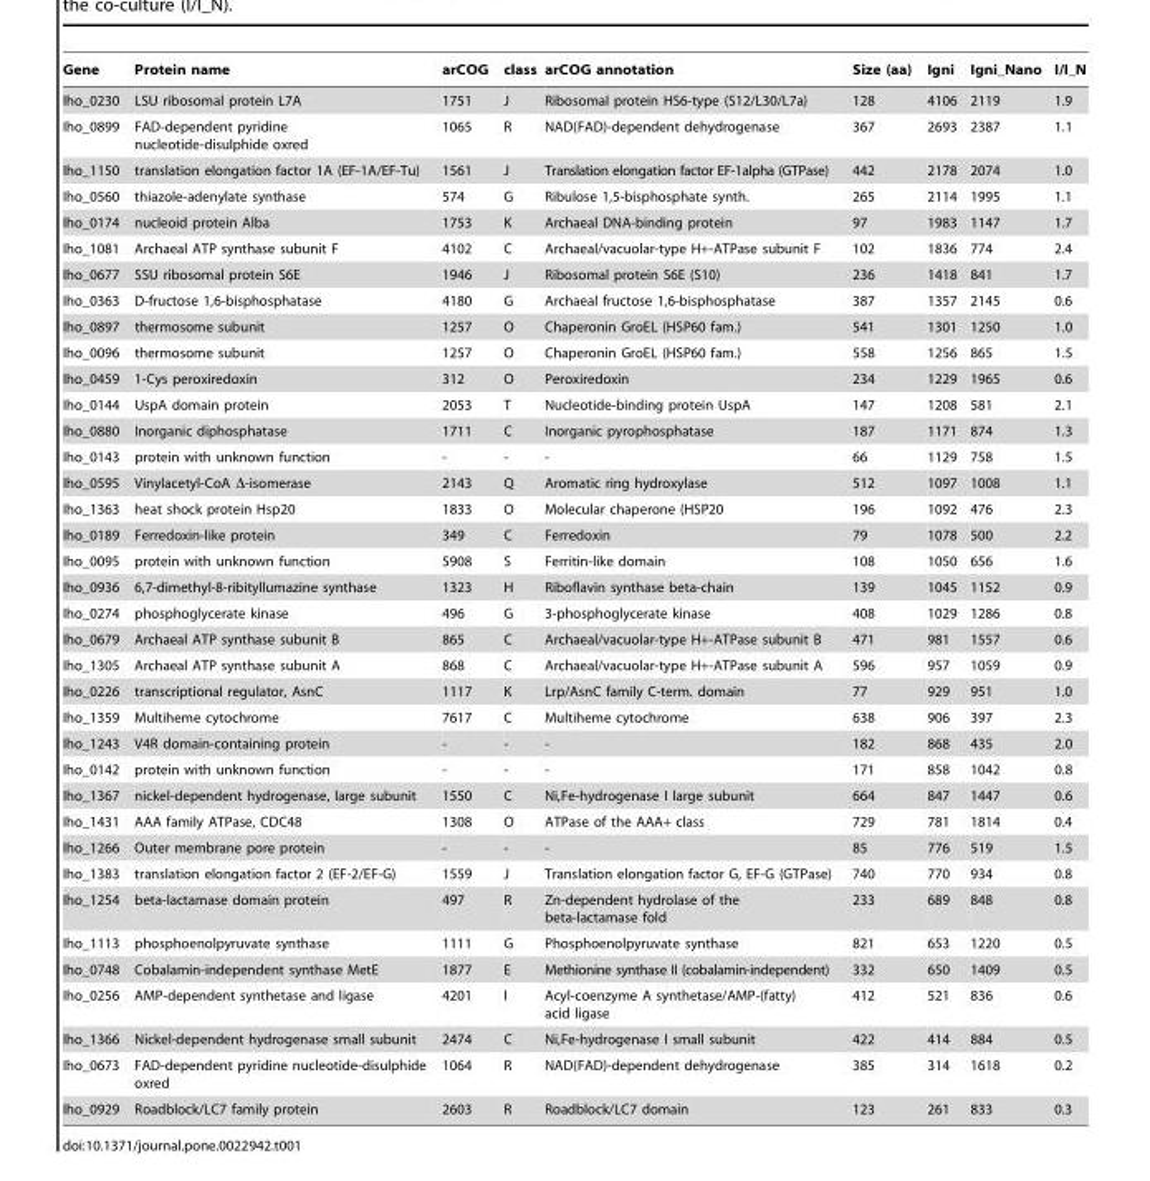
<table><thead><tr><td>Gene</td><td>Protein name</td><td>arCOG</td><td>class</td><td>arCOG annotation</td><td>Size (aa)</td><td>Igni</td><td>Igni_Nano</td><td>I/I_N</td></tr></thead><tbody><tr><td>Iho_0230</td><td>LSU ribosomal protein L7A</td><td>1751</td><td>J</td><td>Ribosomal protein HS6-type (S12/L30/L7a)</td><td>128</td><td>4106</td><td>2119</td><td>1.9</td></tr><tr><td>Iho_0899</td><td>FAD-dependent pyridine nucleotide-disulphide oxred</td><td>1065</td><td>R</td><td>NAD(FAD)-dependent dehydrogenase</td><td>367</td><td>2693</td><td>2387</td><td>1.1</td></tr><tr><td>Iho_1150</td><td>translation elongation factor 1A (EF-1A/EF-Tu)</td><td>1561</td><td>J</td><td>Translation elongation factor EF-1alpha (GTPase)</td><td>442</td><td>2178</td><td>2074</td><td>1.0</td></tr><tr><td>Iho_0560</td><td>thiazole-adenylate synthase</td><td>574</td><td>G</td><td>Ribulose 1,5-bisphosphate synth.</td><td>265</td><td>2114</td><td>1995</td><td>1.1</td></tr><tr><td>Iho_0174</td><td>nucleoid protein Alba</td><td>1753</td><td>K</td><td>Archaeal DNA-binding protein</td><td>97</td><td>1983</td><td>1147</td><td>1.7</td></tr><tr><td>Iho_1081</td><td>Archaeal ATP synthase subunit F</td><td>4102</td><td>C</td><td>Archaeal/vacuolar-type H+-ATPase subunit F</td><td>102</td><td>1836</td><td>774</td><td>2.4</td></tr><tr><td>Iho_0677</td><td>SSU ribosomal protein S6E</td><td>1946</td><td>J</td><td>Ribosomal protein S6E (S10)</td><td>236</td><td>1418</td><td>841</td><td>1.7</td></tr><tr><td>Iho_0363</td><td>D-fructose 1,6-bisphosphatase</td><td>4180</td><td>G</td><td>Archaeal fructose 1,6-bisphosphatase</td><td>387</td><td>1357</td><td>2145</td><td>0.6</td></tr><tr><td>Iho_0897</td><td>thermosome subunit</td><td>1257</td><td>O</td><td>Chaperonin GroEL (HSP60 fam.)</td><td>541</td><td>1301</td><td>1250</td><td>1.0</td></tr><tr><td>Iho_0096</td><td>thermosome subunit</td><td>1257</td><td>O</td><td>Chaperonin GroEL (HSP60 fam.)</td><td>558</td><td>1256</td><td>865</td><td>1.5</td></tr><tr><td>Iho_0459</td><td>1-Cys peroxiredoxin</td><td>312</td><td>O</td><td>Peroxiredoxin</td><td>234</td><td>1229</td><td>1965</td><td>0.6</td></tr><tr><td>Iho_0144</td><td>UspA domain protein</td><td>2053</td><td>T</td><td>Nucleotide-binding protein UspA</td><td>147</td><td>1208</td><td>581</td><td>2.1</td></tr><tr><td>Iho_0880</td><td>Inorganic diphosphatase</td><td>1711</td><td>C</td><td>Inorganic pyrophosphatase</td><td>187</td><td>1171</td><td>874</td><td>1.3</td></tr><tr><td>Iho_0143</td><td>protein with unknown function</td><td>-</td><td>-</td><td>-</td><td>66</td><td>1129</td><td>758</td><td>1.5</td></tr><tr><td>Iho_0595</td><td>Vinylacetyl-CoA Δ-isomerase</td><td>2143</td><td>Q</td><td>Aromatic ring hydroxylase</td><td>512</td><td>1097</td><td>1008</td><td>1.1</td></tr><tr><td>Iho_1363</td><td>heat shock protein Hsp20</td><td>1833</td><td>O</td><td>Molecular chaperone (HSP20</td><td>196</td><td>1092</td><td>476</td><td>2.3</td></tr><tr><td>Iho_0189</td><td>Ferredoxin-like protein</td><td>349</td><td>C</td><td>Ferredoxin</td><td>79</td><td>1078</td><td>500</td><td>2.2</td></tr><tr><td>Iho_0095</td><td>protein with unknown function</td><td>5908</td><td>S</td><td>Ferritin-like domain</td><td>108</td><td>1050</td><td>656</td><td>1.6</td></tr><tr><td>Iho_0936</td><td>6,7-dimethyl-8-ribityllumazine synthase</td><td>1323</td><td>H</td><td>Riboflavin synthase beta-chain</td><td>139</td><td>1045</td><td>1152</td><td>0.9</td></tr><tr><td>Iho_0274</td><td>phosphoglycerate kinase</td><td>496</td><td>G</td><td>3-phosphoglycerate kinase</td><td>408</td><td>1029</td><td>1286</td><td>0.8</td></tr><tr><td>Iho_0679</td><td>Archaeal ATP synthase subunit B</td><td>865</td><td>C</td><td>Archaeal/vacuolar-type H+-ATPase subunit B</td><td>471</td><td>981</td><td>1557</td><td>0.6</td></tr><tr><td>Iho_1305</td><td>Archaeal ATP synthase subunit A</td><td>868</td><td>C</td><td>Archaeal/vacuolar-type H+-ATPase subunit A</td><td>596</td><td>957</td><td>1059</td><td>0.9</td></tr><tr><td>Iho_0226</td><td>transcriptional regulator, AsnC</td><td>1117</td><td>K</td><td>Lrp/AsnC family C-term. domain</td><td>77</td><td>929</td><td>951</td><td>1.0</td></tr><tr><td>Iho_1359</td><td>Multiheme cytochrome</td><td>7617</td><td>C</td><td>Multiheme cytochrome</td><td>638</td><td>906</td><td>397</td><td>2.3</td></tr><tr><td>Iho_1243</td><td>V4R domain-containing protein</td><td>-</td><td>-</td><td>-</td><td>182</td><td>868</td><td>435</td><td>2.0</td></tr><tr><td>Iho_0142</td><td>protein with unknown function</td><td>-</td><td>-</td><td>-</td><td>171</td><td>858</td><td>1042</td><td>0.8</td></tr><tr><td>Iho_1367</td><td>nickel-dependent hydrogenase, large subunit</td><td>1550</td><td>C</td><td>Ni,Fe-hydrogenase I large subunit</td><td>664</td><td>847</td><td>1447</td><td>0.6</td></tr><tr><td>Iho_1431</td><td>AAA family ATPase, CDC48</td><td>1308</td><td>O</td><td>ATPase of the AAA+ class</td><td>729</td><td>781</td><td>1814</td><td>0.4</td></tr><tr><td>Iho_1266</td><td>Outer membrane pore protein</td><td>-</td><td>-</td><td>-</td><td>85</td><td>776</td><td>519</td><td>1.5</td></tr><tr><td>Iho_1383</td><td>translation elongation factor 2 (EF-2/EF-G)</td><td>1559</td><td>J</td><td>Translation elongation factor G, EF-G (GTPase)</td><td>740</td><td>770</td><td>934</td><td>0.8</td></tr><tr><td>Iho_1254</td><td>beta-lactamase domain protein</td><td>497</td><td>R</td><td>Zn-dependent hydrolase of the beta-lactamase fold</td><td>233</td><td>689</td><td>848</td><td>0.8</td></tr><tr><td>Iho_1113</td><td>phosphoenolpyruvate synthase</td><td>1111</td><td>G</td><td>Phosphoenolpyruvate synthase</td><td>821</td><td>653</td><td>1220</td><td>0.5</td></tr><tr><td>Iho_0748</td><td>Cobalamin-independent synthase MetE</td><td>1877</td><td>E</td><td>Methionine synthase II (cobalamin-independent)</td><td>332</td><td>650</td><td>1409</td><td>0.5</td></tr><tr><td>Iho_0256</td><td>AMP-dependent synthetase and ligase</td><td>4201</td><td>I</td><td>Acyl-coenzyme A synthetase/AMP-(fatty) acid ligase</td><td>412</td><td>521</td><td>836</td><td>0.6</td></tr><tr><td>Iho_1366</td><td>Nickel-dependent hydrogenase small subunit</td><td>2474</td><td>C</td><td>Ni,Fe-hydrogenase I small subunit</td><td>422</td><td>414</td><td>884</td><td>0.5</td></tr><tr><td>Iho_0673</td><td>FAD-dependent pyridine nucleotide-disulphide oxred</td><td>1064</td><td>R</td><td>NAD(FAD)-dependent dehydrogenase</td><td>385</td><td>314</td><td>1618</td><td>0.2</td></tr><tr><td>Iho_0929</td><td>Roadblock/LC7 family protein</td><td>2603</td><td>R</td><td>Roadblock/LC7 domain</td><td>123</td><td>261</td><td>833</td><td>0.3</td></tr></tbody></table>